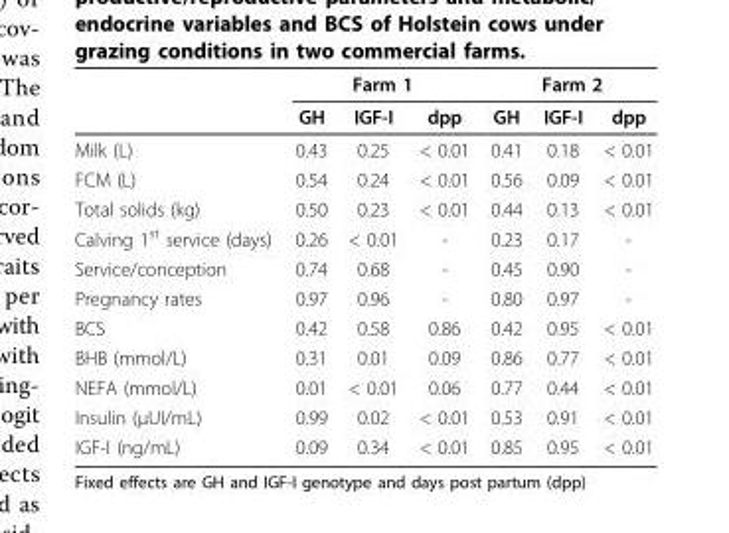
<table><thead><tr><td rowspan="2"></td><td colspan="3">Farm 1</td><td colspan="3">Farm 2</td></tr><tr><td>GH</td><td>IGF-I</td><td>dpp</td><td>GH</td><td>IGF-I</td><td>dpp</td></tr></thead><tbody><tr><td>Milk (L)</td><td>0.43</td><td>0.25</td><td>&lt; 0.01</td><td>0.41</td><td>0.18</td><td>&lt; 0.01</td></tr><tr><td>FCM (L)</td><td>0.54</td><td>0.24</td><td>&lt; 0.01</td><td>0.56</td><td>0.09</td><td>&lt; 0.01</td></tr><tr><td>Total solids (kg)</td><td>0.50</td><td>0.23</td><td>&lt; 0.01</td><td>0.44</td><td>0.13</td><td>&lt; 0.01</td></tr><tr><td>Calving 1<sup>st</sup> service (days)</td><td>0.26</td><td>&lt; 0.01</td><td>-</td><td>0.23</td><td>0.17</td><td>-</td></tr><tr><td>Service/conception</td><td>0.74</td><td>0.68</td><td>-</td><td>0.45</td><td>0.90</td><td>-</td></tr><tr><td>Pregnancy rates</td><td>0.97</td><td>0.96</td><td>-</td><td>0.80</td><td>0.97</td><td>-</td></tr><tr><td>BCS</td><td>0.42</td><td>0.58</td><td>0.86</td><td>0.42</td><td>0.95</td><td>&lt; 0.01</td></tr><tr><td>BHB (mmol/L)</td><td>0.31</td><td>0.01</td><td>0.09</td><td>0.86</td><td>0.77</td><td>&lt; 0.01</td></tr><tr><td>NEFA (mmol/L)</td><td>0.01</td><td>&lt; 0.01</td><td>0.06</td><td>0.77</td><td>0.44</td><td>&lt; 0.01</td></tr><tr><td>Insulin (μUI/mL)</td><td>0.99</td><td>0.02</td><td>&lt; 0.01</td><td>0.53</td><td>0.91</td><td>&lt; 0.01</td></tr><tr><td>IGF-I (ng/mL)</td><td>0.09</td><td>0.34</td><td>&lt; 0.01</td><td>0.85</td><td>0.95</td><td>&lt; 0.01</td></tr></tbody></table>